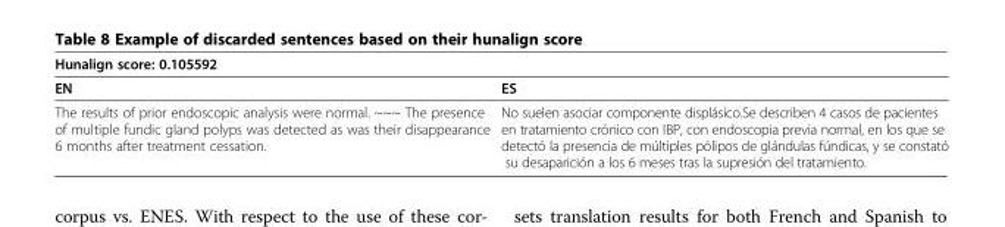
<table><thead><tr><td colspan="2">Hunalign score: 0.105592</td></tr><tr><td>EN</td><td>ES</td></tr></thead><tbody><tr><td>The results of prior endoscopic analysis were normal. ~~~ The presence of multiple fundic gland polyps was detected as was their disappearance 6 months after treatment cessation.</td><td>No suelen asociar componente displásico.Se describen 4 casos de pacientes en tratamiento crónico con IBP, con endoscopia previa normal, en los que se detectó la presencia de múltiples pólipos de glándulas fúndicas, y se constató su desaparición a los 6 meses tras la supresión del tratamiento.</td></tr></tbody></table>